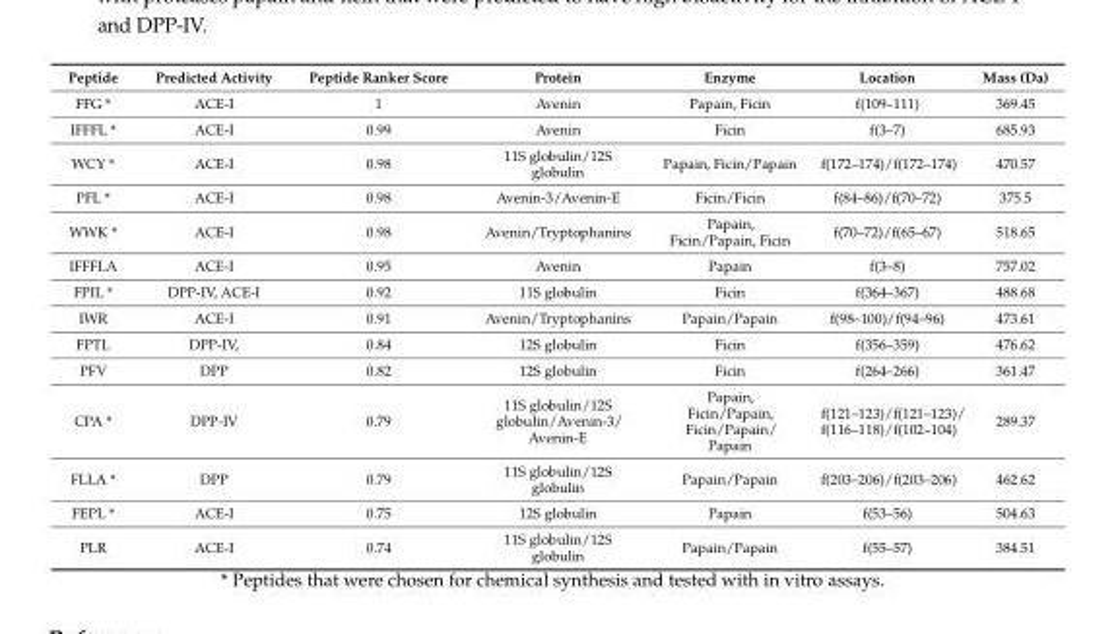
<table><thead><tr><td>Peptide</td><td>Predicted Activity</td><td>Peptide Ranker Score</td><td>Protein</td><td>Enzyme</td><td>Location</td><td>Mass (Da)</td></tr></thead><tbody><tr><td>FFG *</td><td>ACE-I</td><td>1</td><td>Avenin</td><td>Papain, Ficin</td><td>f(109–111)</td><td>369.45</td></tr><tr><td>IFFFL *</td><td>ACE-I</td><td>0.99</td><td>Avenin</td><td>Ficin</td><td>f(3–7)</td><td>685.93</td></tr><tr><td>WCY *</td><td>ACE-I</td><td>0.98</td><td>11S globulin/12S globulin</td><td>Papain, Ficin/Papain</td><td>f(172–174)/f(172–174)</td><td>470.57</td></tr><tr><td>PFL *</td><td>ACE-I</td><td>0.98</td><td>Avenin-3/Avenin-E</td><td>Ficin/Ficin</td><td>f(84–86)/f(70–72)</td><td>375.5</td></tr><tr><td>WWK *</td><td>ACE-I</td><td>0.98</td><td>Avenin/Tryptophanins</td><td>Papain, Ficin/Papain, Ficin</td><td>f(70–72)/f(65–67)</td><td>518.65</td></tr><tr><td>IFFFLA</td><td>ACE-I</td><td>0.95</td><td>Avenin</td><td>Papain</td><td>f(3–8)</td><td>757.02</td></tr><tr><td>FPIL *</td><td>DPP-IV, ACE-I</td><td>0.92</td><td>11S globulin</td><td>Ficin</td><td>f(364–367)</td><td>488.68</td></tr><tr><td>IWR</td><td>ACE-I</td><td>0.91</td><td>Avenin/Tryptophanins</td><td>Papain/Papain</td><td>f(98–100)/f(94–96)</td><td>473.61</td></tr><tr><td>FPTL</td><td>DPP-IV,</td><td>0.84</td><td>12S globulin</td><td>Ficin</td><td>f(356–359)</td><td>476.62</td></tr><tr><td>PFV</td><td>DPP</td><td>0.82</td><td>12S globulin</td><td>Ficin</td><td>f(264–266)</td><td>361.47</td></tr><tr><td>CPA *</td><td>DPP-IV</td><td>0.79</td><td>11S globulin/12S globulin/Avenin-3/ Avenin-E</td><td>Papain, Ficin/Papain, Ficin/Papain/ Papain</td><td>f(121–123)/f(121–123)/ f(116–118)/f(102–104)</td><td>289.37</td></tr><tr><td>FLLA *</td><td>DPP</td><td>0.79</td><td>11S globulin/12S globulin</td><td>Papain/Papain</td><td>f(203–206)/f(203–206)</td><td>462.62</td></tr><tr><td>FEPL *</td><td>ACE-I</td><td>0.75</td><td>12S globulin</td><td>Papain</td><td>f(53–56)</td><td>504.63</td></tr><tr><td>PLR</td><td>ACE-I</td><td>0.74</td><td>11S globulin/12S globulin</td><td>Papain/Papain</td><td>f(55–57)</td><td>384.51</td></tr></tbody></table>